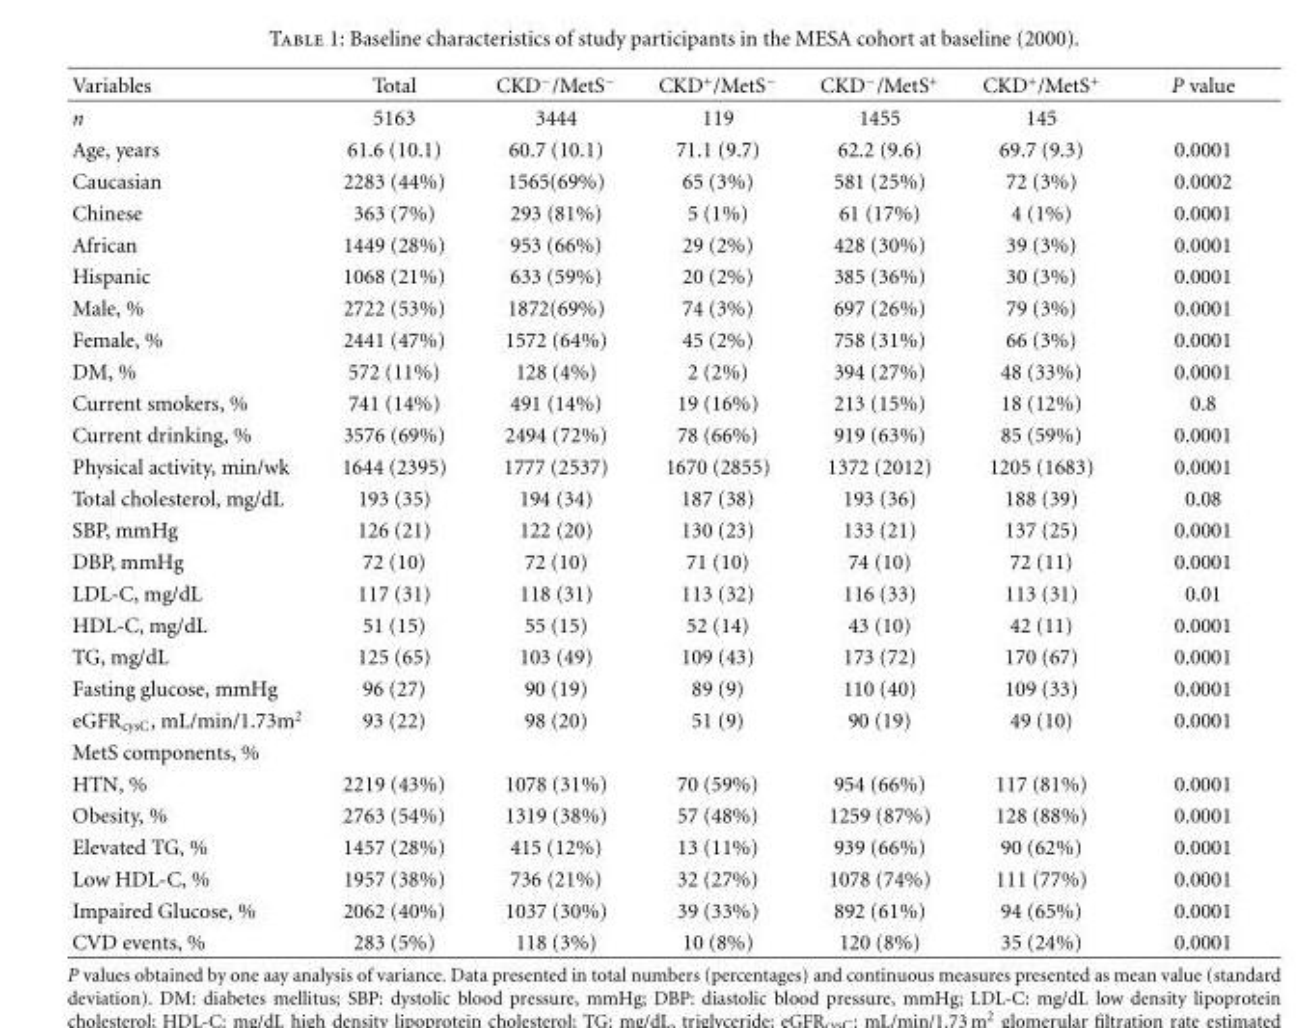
<table><thead><tr><td>Variables</td><td>Total</td><td>CKD<sup>−</sup>/MetS<sup>−</sup></td><td>CKD<sup>+</sup>/MetS<sup>−</sup></td><td>CKD<sup>−</sup>/MetS<sup>+</sup></td><td>CKD<sup>+</sup>/MetS<sup>+</sup></td><td>P value</td></tr></thead><tbody><tr><td>n</td><td>5163</td><td>3444</td><td>119</td><td>1455</td><td>145</td><td></td></tr><tr><td>Age, years</td><td>61.6 (10.1)</td><td>60.7 (10.1)</td><td>71.1 (9.7)</td><td>62.2 (9.6)</td><td>69.7 (9.3)</td><td>0.0001</td></tr><tr><td>Caucasian</td><td>2283 (44%)</td><td>1565(69%)</td><td>65 (3%)</td><td>581 (25%)</td><td>72 (3%)</td><td>0.0002</td></tr><tr><td>Chinese</td><td>363 (7%)</td><td>293 (81%)</td><td>5 (1%)</td><td>61 (17%)</td><td>4 (1%)</td><td>0.0001</td></tr><tr><td>African</td><td>1449 (28%)</td><td>953 (66%)</td><td>29 (2%)</td><td>428 (30%)</td><td>39 (3%)</td><td>0.0001</td></tr><tr><td>Hispanic</td><td>1068 (21%)</td><td>633 (59%)</td><td>20 (2%)</td><td>385 (36%)</td><td>30 (3%)</td><td>0.0001</td></tr><tr><td>Male, %</td><td>2722 (53%)</td><td>1872(69%)</td><td>74 (3%)</td><td>697 (26%)</td><td>79 (3%)</td><td>0.0001</td></tr><tr><td>Female, %</td><td>2441 (47%)</td><td>1572 (64%)</td><td>45 (2%)</td><td>758 (31%)</td><td>66 (3%)</td><td>0.0001</td></tr><tr><td>DM, %</td><td>572 (11%)</td><td>128 (4%)</td><td>2 (2%)</td><td>394 (27%)</td><td>48 (33%)</td><td>0.0001</td></tr><tr><td>Current smokers, %</td><td>741 (14%)</td><td>491 (14%)</td><td>19 (16%)</td><td>213 (15%)</td><td>18 (12%)</td><td>0.8</td></tr><tr><td>Current drinking, %</td><td>3576 (69%)</td><td>2494 (72%)</td><td>78 (66%)</td><td>919 (63%)</td><td>85 (59%)</td><td>0.0001</td></tr><tr><td>Physical activity, min/wk</td><td>1644 (2395)</td><td>1777 (2537)</td><td>1670 (2855)</td><td>1372 (2012)</td><td>1205 (1683)</td><td>0.0001</td></tr><tr><td>Total cholesterol, mg/dL</td><td>193 (35)</td><td>194 (34)</td><td>187 (38)</td><td>193 (36)</td><td>188 (39)</td><td>0.08</td></tr><tr><td>SBP, mmHg</td><td>126 (21)</td><td>122 (20)</td><td>130 (23)</td><td>133 (21)</td><td>137 (25)</td><td>0.0001</td></tr><tr><td>DBP, mmHg</td><td>72 (10)</td><td>72 (10)</td><td>71 (10)</td><td>74 (10)</td><td>72 (11)</td><td>0.0001</td></tr><tr><td>LDL-C, mg/dL</td><td>117 (31)</td><td>118 (31)</td><td>113 (32)</td><td>116 (33)</td><td>113 (31)</td><td>0.01</td></tr><tr><td>HDL-C, mg/dL</td><td>51 (15)</td><td>55 (15)</td><td>52 (14)</td><td>43 (10)</td><td>42 (11)</td><td>0.0001</td></tr><tr><td>TG, mg/dL</td><td>125 (65)</td><td>103 (49)</td><td>109 (43)</td><td>173 (72)</td><td>170 (67)</td><td>0.0001</td></tr><tr><td>Fasting glucose, mmHg</td><td>96 (27)</td><td>90 (19)</td><td>89 (9)</td><td>110 (40)</td><td>109 (33)</td><td>0.0001</td></tr><tr><td>eGFR<sub>cysC</sub>, mL/min/1.73m<sup>2</sup></td><td>93 (22)</td><td>98 (20)</td><td>51 (9)</td><td>90 (19)</td><td>49 (10)</td><td>0.0001</td></tr><tr><td colspan="7">MetS components, %</td></tr><tr><td>HTN, %</td><td>2219 (43%)</td><td>1078 (31%)</td><td>70 (59%)</td><td>954 (66%)</td><td>117 (81%)</td><td>0.0001</td></tr><tr><td>Obesity, %</td><td>2763 (54%)</td><td>1319 (38%)</td><td>57 (48%)</td><td>1259 (87%)</td><td>128 (88%)</td><td>0.0001</td></tr><tr><td>Elevated TG, %</td><td>1457 (28%)</td><td>415 (12%)</td><td>13 (11%)</td><td>939 (66%)</td><td>90 (62%)</td><td>0.0001</td></tr><tr><td>Low HDL-C, %</td><td>1957 (38%)</td><td>736 (21%)</td><td>32 (27%)</td><td>1078 (74%)</td><td>111 (77%)</td><td>0.0001</td></tr><tr><td>Impaired Glucose, %</td><td>2062 (40%)</td><td>1037 (30%)</td><td>39 (33%)</td><td>892 (61%)</td><td>94 (65%)</td><td>0.0001</td></tr><tr><td>CVD events, %</td><td>283 (5%)</td><td>118 (3%)</td><td>10 (8%)</td><td>120 (8%)</td><td>35 (24%)</td><td>0.0001</td></tr></tbody></table>